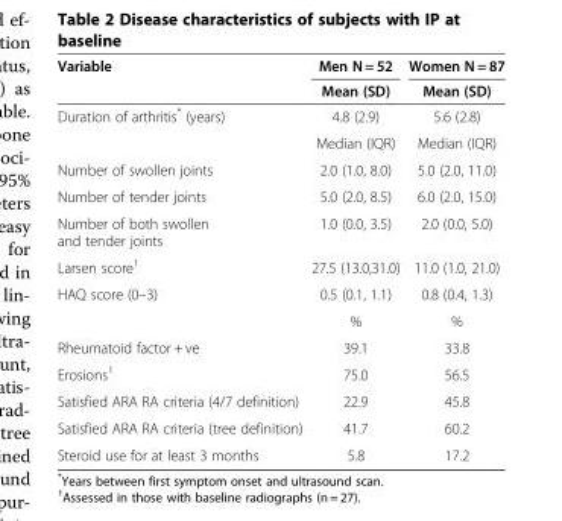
<table><thead><tr><td rowspan="2">Variable</td><td rowspan="2">Men N = 52 Mean (SD)</td><td rowspan="2">Women N = 87 Mean (SD)</td></tr><tr></tr></thead><tbody><tr><td rowspan="2">Duration of arthritis* (years)</td><td>4.8 (2.9)</td><td>5.6 (2.8)</td></tr><tr><td>Median (IQR)</td><td>Median (IQR)</td></tr><tr><td>Number of swollen joints</td><td>2.0 (1.0, 8.0)</td><td>5.0 (2.0, 11.0)</td></tr><tr><td>Number of tender joints</td><td>5.0 (2.0, 8.5)</td><td>6.0 (2.0, 15.0)</td></tr><tr><td>Number of both swollen and tender joints</td><td>1.0 (0.0, 3.5)</td><td>2.0 (0.0, 5.0)</td></tr><tr><td>Larsen score<sup>1</sup></td><td>27.5 (13.0,31.0)</td><td>11.0 (1.0, 21.0)</td></tr><tr><td rowspan="2">HAQ score (0–3)</td><td>0.5 (0.1, 1.1)</td><td>0.8 (0.4, 1.3)</td></tr><tr><td>%</td><td>%</td></tr><tr><td>Rheumatoid factor + ve</td><td>39.1</td><td>33.8</td></tr><tr><td>Erosions<sup>1</sup></td><td>75.0</td><td>56.5</td></tr><tr><td>Satisfied ARA RA criteria (4/7 definition)</td><td>22.9</td><td>45.8</td></tr><tr><td>Satisfied ARA RA criteria (tree definition)</td><td>41.7</td><td>60.2</td></tr><tr><td>Steroid use for at least 3 months</td><td>5.8</td><td>17.2</td></tr></tbody></table>